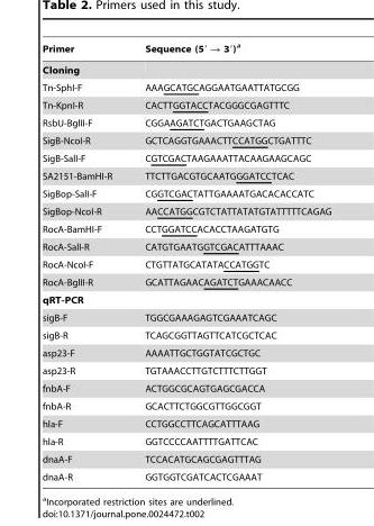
<table><thead><tr><td>Primer</td><td>Sequence (5′ → 3′)<sup>a</sup></td></tr></thead><tbody><tr><td colspan="2">Cloning</td></tr><tr><td>Tn-SphI-F</td><td>AAAGCATGCAGGAATGAATTATGCGG</td></tr><tr><td>Tn-KpnI-R</td><td>CACTTGGTACCTACGGGCGAGTTTC</td></tr><tr><td>RsbU-BglII-F</td><td>CGGAAGATCTGACTGAAGCTAG</td></tr><tr><td>SigB-NcoI-R</td><td>GCTCAGGTGAAACTTCCATGGCTGATTTC</td></tr><tr><td>SigB-SalI-F</td><td>CGTCGACTAAGAAATTACAAGAAGCAGC</td></tr><tr><td>SA2151-BamHI-R</td><td>TTCTTGACGTGCAATGGGATCCTCAC</td></tr><tr><td>SigBop-SalI-F</td><td>CGGTCGACTATTGAAAATGACACACCATC</td></tr><tr><td>SigBop-NcoI-R</td><td>AACCATGGCGTCTATTATATGTATTTTTCAGAG</td></tr><tr><td>RocA-BamHI-F</td><td>CCTGGATCCACACCTAAGATGTG</td></tr><tr><td>RocA-SalI-R</td><td>CATGTGAATGGTCGACATTTAAAC</td></tr><tr><td>RocA-NcoI-F</td><td>CTGTTATGCATATACCATGGTC</td></tr><tr><td>RocA-BglII-R</td><td>GCATTAGAACAGATCTGAAACAACC</td></tr><tr><td colspan="2">qRT-PCR</td></tr><tr><td>sigB-F</td><td>TGGCGAAAGAGTCGAAATCAGC</td></tr><tr><td>sigB-R</td><td>TCAGCGGTTAGTTCATCGCTCAC</td></tr><tr><td>asp23-F</td><td>AAAATTGCTGGTATCGCTGC</td></tr><tr><td>asp23-R</td><td>TGTAAACCTTGTCTTTCTTGGT</td></tr><tr><td>fnbA-F</td><td>ACTGGCGCAGTGAGCGACCA</td></tr><tr><td>fnbA-R</td><td>GCACTTCTGGCGTTGGCGGT</td></tr><tr><td>hla-F</td><td>CCTGGCCTTCAGCATTTAAG</td></tr><tr><td>hla-R</td><td>GGTCCCCAATTTTGATTCAC</td></tr><tr><td>dnaA-F</td><td>TCCACATGCAGCGAGTTTAG</td></tr><tr><td>dnaA-R</td><td>GGTGGTCGATCACTCGAAAT</td></tr></tbody></table>